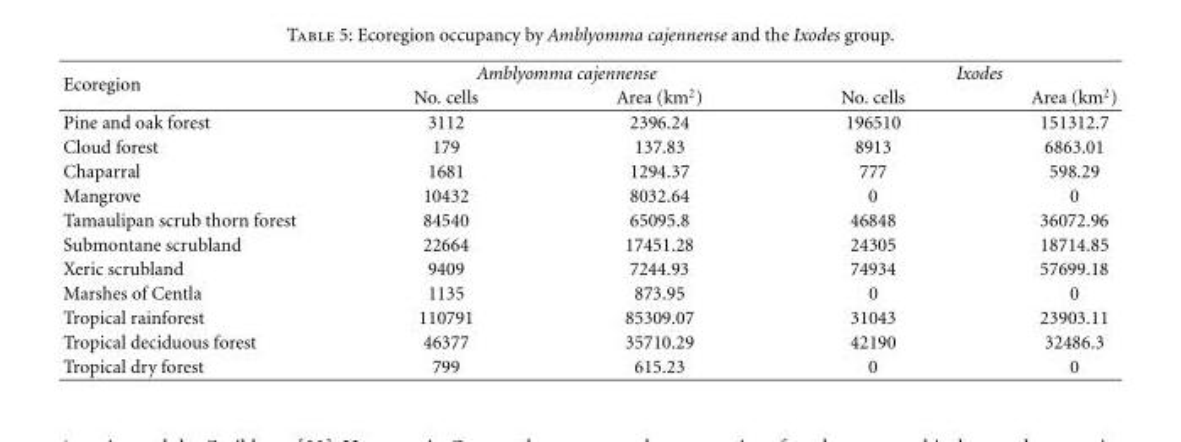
<table><thead><tr><td rowspan="2">Ecoregion</td><td colspan="2">Amblyomma cajennense</td><td colspan="2">Ixodes</td></tr><tr><td>No. cells</td><td>Area (km<sup>2</sup>)</td><td>No. cells</td><td>Area (km<sup>2</sup>)</td></tr></thead><tbody><tr><td>Pine and oak forest</td><td>3112</td><td>2396.24</td><td>196510</td><td>151312.7</td></tr><tr><td>Cloud forest</td><td>179</td><td>137.83</td><td>8913</td><td>6863.01</td></tr><tr><td>Chaparral</td><td>1681</td><td>1294.37</td><td>777</td><td>598.29</td></tr><tr><td>Mangrove</td><td>10432</td><td>8032.64</td><td>0</td><td>0</td></tr><tr><td>Tamaulipan scrub thorn forest</td><td>84540</td><td>65095.8</td><td>46848</td><td>36072.96</td></tr><tr><td>Submontane scrubland</td><td>22664</td><td>17451.28</td><td>24305</td><td>18714.85</td></tr><tr><td>Xeric scrubland</td><td>9409</td><td>7244.93</td><td>74934</td><td>57699.18</td></tr><tr><td>Marshes of Centla</td><td>1135</td><td>873.95</td><td>0</td><td>0</td></tr><tr><td>Tropical rainforest</td><td>110791</td><td>85309.07</td><td>31043</td><td>23903.11</td></tr><tr><td>Tropical deciduous forest</td><td>46377</td><td>35710.29</td><td>42190</td><td>32486.3</td></tr><tr><td>Tropical dry forest</td><td>799</td><td>615.23</td><td>0</td><td>0</td></tr></tbody></table>